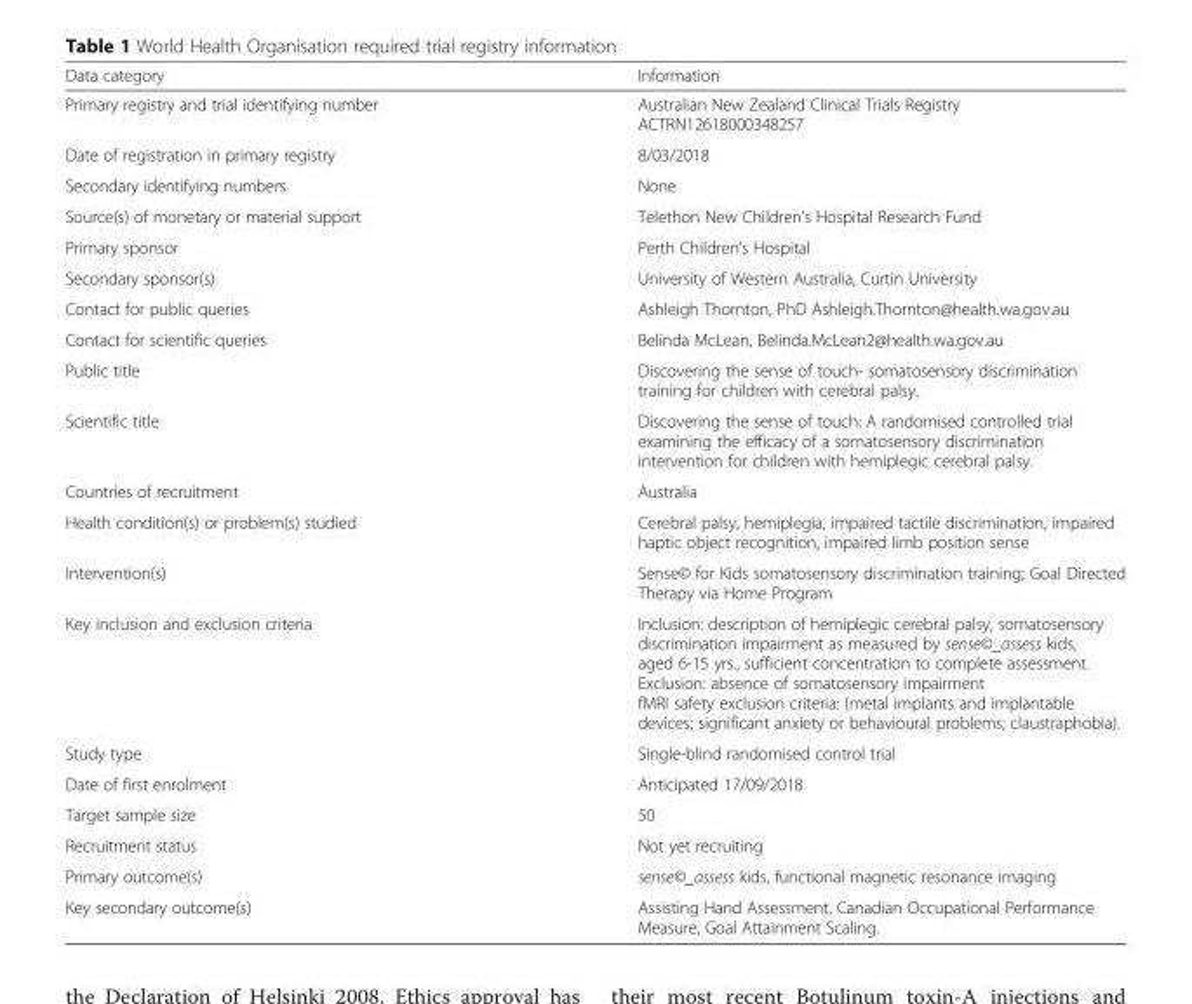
<table><thead><tr><td>Data category</td><td>Information</td></tr></thead><tbody><tr><td>Primary registry and trial identifying number</td><td>Australian New Zealand Clinical Trials Registry ACTRN12618000348257</td></tr><tr><td>Date of registration in primary registry</td><td>8/03/2018</td></tr><tr><td>Secondary identifying numbers</td><td>None</td></tr><tr><td>Source(s) of monetary or material support</td><td>Telethon New Children’s Hospital Research Fund</td></tr><tr><td>Primary sponsor</td><td>Perth Children’s Hospital</td></tr><tr><td>Secondary sponsor(s)</td><td>University of Western Australia, Curtin University</td></tr><tr><td>Contact for public queries</td><td>Ashleigh Thornton, PhD Ashleigh.Thornton@health.wa.gov.au</td></tr><tr><td>Contact for scientific queries</td><td>Belinda McLean, Belinda.McLean2@health.wa.gov.au</td></tr><tr><td>Public title</td><td>Discovering the sense of touch- somatosensory discrimination training for children with cerebral palsy.</td></tr><tr><td>Scientific title</td><td>Discovering the sense of touch: A randomised controlled trial examining the efficacy of a somatosensory discrimination intervention for children with hemiplegic cerebral palsy.</td></tr><tr><td>Countries of recruitment</td><td>Australia</td></tr><tr><td>Health condition(s) or problem(s) studied</td><td>Cerebral palsy, hemiplegia, impaired tactile discrimination, impaired haptic object recognition, impaired limb position sense</td></tr><tr><td>Intervention(s)</td><td>Sense© for Kids somatosensory discrimination training; Goal Directed Therapy via Home Program</td></tr><tr><td>Key inclusion and exclusion criteria</td><td>Inclusion: description of hemiplegic cerebral palsy, somatosensory discrimination impairment as measured by sense©_assess kids, aged 6-15 yrs., sufficient concentration to complete assessment. Exclusion: absence of somatosensory impairment fMRI safety exclusion criteria: (metal implants and implantable devices; significant anxiety or behavioural problems; claustraphobia).</td></tr><tr><td>Study type</td><td>Single-blind randomised control trial</td></tr><tr><td>Date of first enrolment</td><td>Anticipated 17/09/2018</td></tr><tr><td>Target sample size</td><td>50</td></tr><tr><td>Recruitment status</td><td>Not yet recruiting</td></tr><tr><td>Primary outcome(s)</td><td>sense©_assess kids, functional magnetic resonance imaging</td></tr><tr><td>Key secondary outcome(s)</td><td>Assisting Hand Assessment, Canadian Occupational Performance Measure, Goal Attainment Scaling.</td></tr></tbody></table>